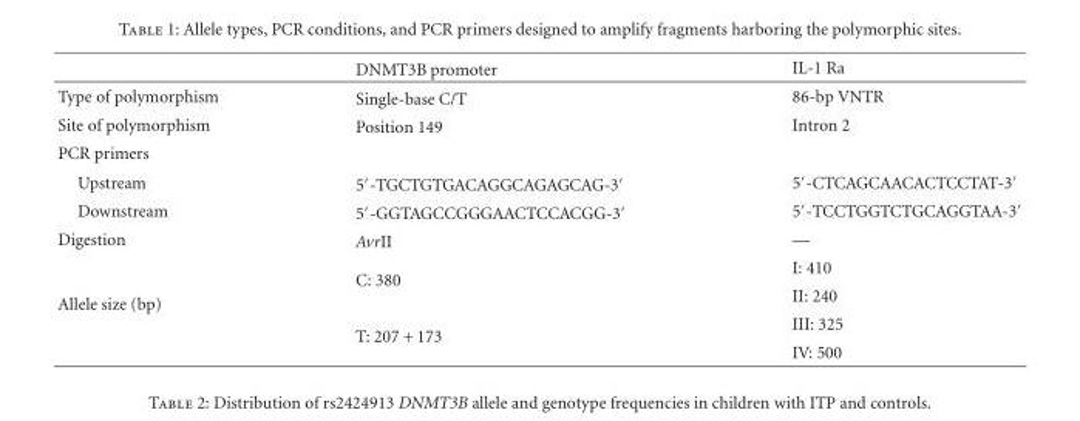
<table><thead><tr><td></td><td>DNMT3B promoter</td><td>IL-1 Ra</td></tr></thead><tbody><tr><td>Type of polymorphism</td><td>Single-base C/T</td><td>86-bp VNTR</td></tr><tr><td>Site of polymorphism</td><td>Position 149</td><td>Intron 2</td></tr><tr><td colspan="3">PCR primers</td></tr><tr><td>Upstream</td><td>5′-TGCTGTGACAGGCAGAGCAG-3′</td><td>5′-CTCAGCAACACTCCTAT-3′</td></tr><tr><td>Downstream</td><td>5′-GGTAGCCGGGAACTCCACGG-3′</td><td>5′-TCCTGGTCTGCAGGTAA-3′</td></tr><tr><td>Digestion</td><td>AvrII</td><td>—</td></tr><tr><td rowspan="4">Allele size (bp)</td><td rowspan="2">C: 380</td><td>I: 410</td></tr><tr><td>II: 240</td></tr><tr><td rowspan="2">T: 207 + 173</td><td>III: 325</td></tr><tr><td>IV: 500</td></tr></tbody></table>